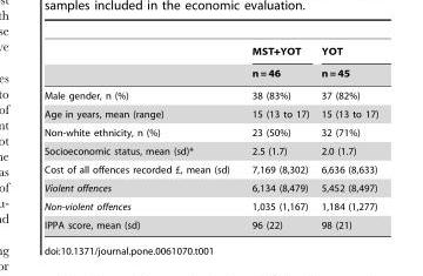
<table><thead><tr><td rowspan="2"></td><td rowspan="2">MST+YOT n = 46</td><td rowspan="2">YOT n = 45</td></tr><tr></tr></thead><tbody><tr><td>Male gender, n (%)</td><td>38 (83%)</td><td>37 (82%)</td></tr><tr><td>Age in years, mean (range)</td><td>15 (13 to 17)</td><td>15 (13 to 17)</td></tr><tr><td>Non-white ethnicity, n (%)</td><td>23 (50%)</td><td>32 (71%)</td></tr><tr><td>Socioeconomic status, mean (sd)*</td><td>2.5 (1.7)</td><td>2.0 (1.7)</td></tr><tr><td>Cost of all offences recorded £, mean (sd)</td><td>7,169 (8,302)</td><td>6,636 (8,633)</td></tr><tr><td>Violent offences</td><td>6,134 (8,479)</td><td>5,452 (8,497)</td></tr><tr><td>Non-violent offences</td><td>1,035 (1,167)</td><td>1,184 (1,277)</td></tr><tr><td>IPPA score, mean (sd)</td><td>96 (22)</td><td>98 (21)</td></tr></tbody></table>